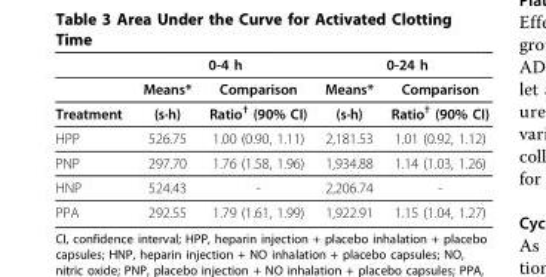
<table><thead><tr><td rowspan="2"></td><td colspan="2">0-4 h</td><td colspan="2">0-24 h</td></tr><tr><td>Means*</td><td>Comparison</td><td>Means*</td><td>Comparison</td></tr></thead><tbody><tr><td>Treatment</td><td>(s·h)</td><td>Ratio<sup>†</sup> (90% CI)</td><td>(s·h)</td><td>Ratio<sup>†</sup> (90% CI)</td></tr><tr><td>HPP</td><td>526.75</td><td>1.00 (0.90, 1.11)</td><td>2,181.53</td><td>1.01 (0.92, 1.12)</td></tr><tr><td>PNP</td><td>297.70</td><td>1.76 (1.58, 1.96)</td><td>1,934.88</td><td>1.14 (1.03, 1.26)</td></tr><tr><td>HNP</td><td>524.43</td><td>-</td><td>2,206.74</td><td>-</td></tr><tr><td>PPA</td><td>292.55</td><td>1.79 (1.61, 1.99)</td><td>1,922.91</td><td>1.15 (1.04, 1.27)</td></tr></tbody></table>